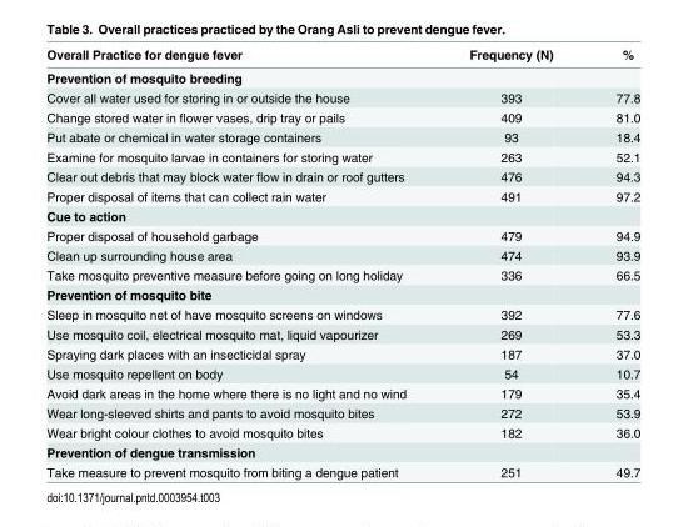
<table><thead><tr><td>Overall Practice for dengue fever</td><td>Frequency (N)</td><td>%</td></tr></thead><tbody><tr><td colspan="3">Prevention of mosquito breeding</td></tr><tr><td>Cover all water used for storing in or outside the house</td><td>393</td><td>77.8</td></tr><tr><td>Change stored water in flower vases, drip tray or pails</td><td>409</td><td>81.0</td></tr><tr><td>Put abate or chemical in water storage containers</td><td>93</td><td>18.4</td></tr><tr><td>Examine for mosquito larvae in containers for storing water</td><td>263</td><td>52.1</td></tr><tr><td>Clear out debris that may block water flow in drain or roof gutters</td><td>476</td><td>94.3</td></tr><tr><td>Proper disposal of items that can collect rain water</td><td>491</td><td>97.2</td></tr><tr><td colspan="3">Cue to action</td></tr><tr><td>Proper disposal of household garbage</td><td>479</td><td>94.9</td></tr><tr><td>Clean up surrounding house area</td><td>474</td><td>93.9</td></tr><tr><td>Take mosquito preventive measure before going on long holiday</td><td>336</td><td>66.5</td></tr><tr><td colspan="3">Prevention of mosquito bite</td></tr><tr><td>Sleep in mosquito net of have mosquito screens on windows</td><td>392</td><td>77.6</td></tr><tr><td>Use mosquito coil, electrical mosquito mat, liquid vapourizer</td><td>269</td><td>53.3</td></tr><tr><td>Spraying dark places with an insecticidal spray</td><td>187</td><td>37.0</td></tr><tr><td>Use mosquito repellent on body</td><td>54</td><td>10.7</td></tr><tr><td>Avoid dark areas in the home where there is no light and no wind</td><td>179</td><td>35.4</td></tr><tr><td>Wear long-sleeved shirts and pants to avoid mosquito bites</td><td>272</td><td>53.9</td></tr><tr><td>Wear bright colour clothes to avoid mosquito bites</td><td>182</td><td>36.0</td></tr><tr><td colspan="3">Prevention of dengue transmission</td></tr><tr><td>Take measure to prevent mosquito from biting a dengue patient</td><td>251</td><td>49.7</td></tr></tbody></table>